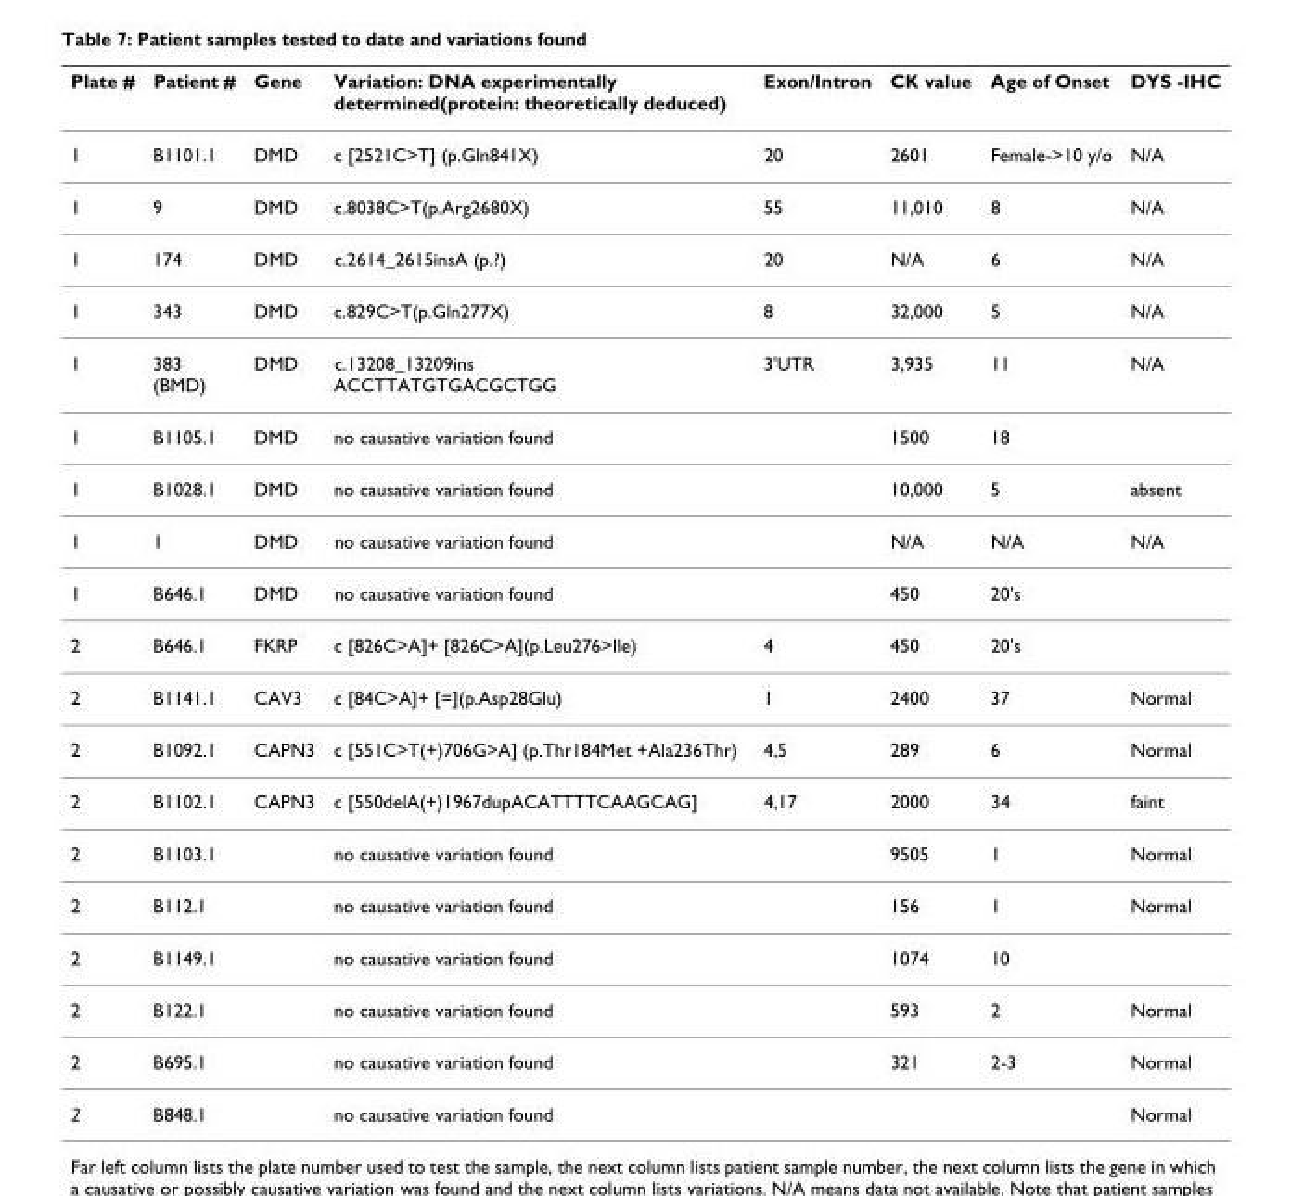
<table><thead><tr><td>Plate #</td><td>Patient #</td><td>Gene</td><td>Variation: DNA experimentally determined(protein: theoretically deduced)</td><td>Exon/Intron</td><td>CK value</td><td>Age of Onset</td><td>DYS -IHC</td></tr></thead><tbody><tr><td>1</td><td>B1101.1</td><td>DMD</td><td>c [2521C&gt;T] (p.Gln841X)</td><td>20</td><td>2601</td><td>Female-&gt;10 y/o</td><td>N/A</td></tr><tr><td>1</td><td>9</td><td>DMD</td><td>c.8038C&gt;T(p.Arg2680X)</td><td>55</td><td>11,010</td><td>8</td><td>N/A</td></tr><tr><td>1</td><td>174</td><td>DMD</td><td>c.2614_2615insA (p.?)</td><td>20</td><td>N/A</td><td>6</td><td>N/A</td></tr><tr><td>1</td><td>343</td><td>DMD</td><td>c.829C&gt;T(p.Gln277X)</td><td>8</td><td>32,000</td><td>5</td><td>N/A</td></tr><tr><td>1</td><td>383 (BMD)</td><td>DMD</td><td>c.13208_13209ins ACCTTATGTGACGCTGG</td><td>3&#x27;UTR</td><td>3,935</td><td>11</td><td>N/A</td></tr><tr><td>1</td><td>B1105.1</td><td>DMD</td><td>no causative variation found</td><td></td><td>1500</td><td>18</td><td></td></tr><tr><td>1</td><td>B1028.1</td><td>DMD</td><td>no causative variation found</td><td></td><td>10,000</td><td>5</td><td>absent</td></tr><tr><td>1</td><td>1</td><td>DMD</td><td>no causative variation found</td><td></td><td>N/A</td><td>N/A</td><td>N/A</td></tr><tr><td>1</td><td>B646.1</td><td>DMD</td><td>no causative variation found</td><td></td><td>450</td><td>20&#x27;s</td><td></td></tr><tr><td>2</td><td>B646.1</td><td>FKRP</td><td>c [826C&gt;A]+ [826C&gt;A](p.Leu276&gt;Ile)</td><td>4</td><td>450</td><td>20&#x27;s</td><td></td></tr><tr><td>2</td><td>B1141.1</td><td>CAV3</td><td>c [84C&gt;A]+ [=](p.Asp28Glu)</td><td>1</td><td>2400</td><td>37</td><td>Normal</td></tr><tr><td>2</td><td>B1092.1</td><td>CAPN3</td><td>c [551C&gt;T(+)706G&gt;A] (p.Thr184Met +Ala236Thr)</td><td>4,5</td><td>289</td><td>6</td><td>Normal</td></tr><tr><td>2</td><td>B1102.1</td><td>CAPN3</td><td>c [550delA(+)1967dupACATTTTCAAGCAG]</td><td>4,17</td><td>2000</td><td>34</td><td>faint</td></tr><tr><td>2</td><td>B1103.1</td><td></td><td>no causative variation found</td><td></td><td>9505</td><td>1</td><td>Normal</td></tr><tr><td>2</td><td>B112.1</td><td></td><td>no causative variation found</td><td></td><td>156</td><td>1</td><td>Normal</td></tr><tr><td>2</td><td>B1149.1</td><td></td><td>no causative variation found</td><td></td><td>1074</td><td>10</td><td></td></tr><tr><td>2</td><td>B122.1</td><td></td><td>no causative variation found</td><td></td><td>593</td><td>2</td><td>Normal</td></tr><tr><td>2</td><td>B695.1</td><td></td><td>no causative variation found</td><td></td><td>321</td><td>2-3</td><td>Normal</td></tr><tr><td>2</td><td>B848.1</td><td></td><td>no causative variation found</td><td></td><td></td><td></td><td>Normal</td></tr></tbody></table>